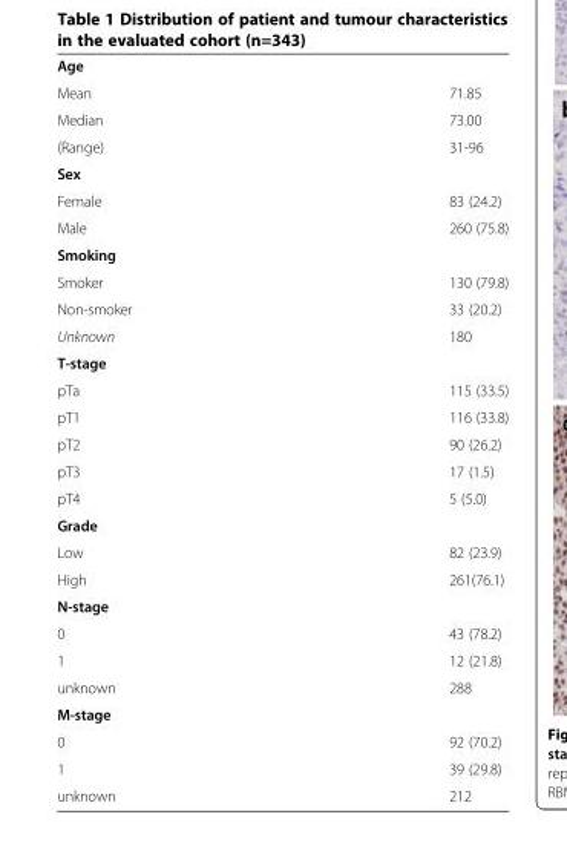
<table><tbody><tr><td colspan="2">Age</td></tr><tr><td>Mean</td><td>71.85</td></tr><tr><td>Median</td><td>73.00</td></tr><tr><td>(Range)</td><td>31-96</td></tr><tr><td colspan="2">Sex</td></tr><tr><td>Female</td><td>83 (24.2)</td></tr><tr><td>Male</td><td>260 (75.8)</td></tr><tr><td colspan="2">Smoking</td></tr><tr><td>Smoker</td><td>130 (79.8)</td></tr><tr><td>Non-smoker</td><td>33 (20.2)</td></tr><tr><td>Unknown</td><td>180</td></tr><tr><td colspan="2">T-stage</td></tr><tr><td>pTa</td><td>115 (33.5)</td></tr><tr><td>pT1</td><td>116 (33.8)</td></tr><tr><td>pT2</td><td>90 (26.2)</td></tr><tr><td>pT3</td><td>17 (1.5)</td></tr><tr><td>pT4</td><td>5 (5.0)</td></tr><tr><td colspan="2">Grade</td></tr><tr><td>Low</td><td>82 (23.9)</td></tr><tr><td>High</td><td>261(76.1)</td></tr><tr><td colspan="2">N-stage</td></tr><tr><td>0</td><td>43 (78.2)</td></tr><tr><td>1</td><td>12 (21.8)</td></tr><tr><td>unknown</td><td>288</td></tr><tr><td colspan="2">M-stage</td></tr><tr><td>0</td><td>92 (70.2)</td></tr><tr><td>1</td><td>39 (29.8)</td></tr><tr><td>unknown</td><td>212</td></tr></tbody></table>